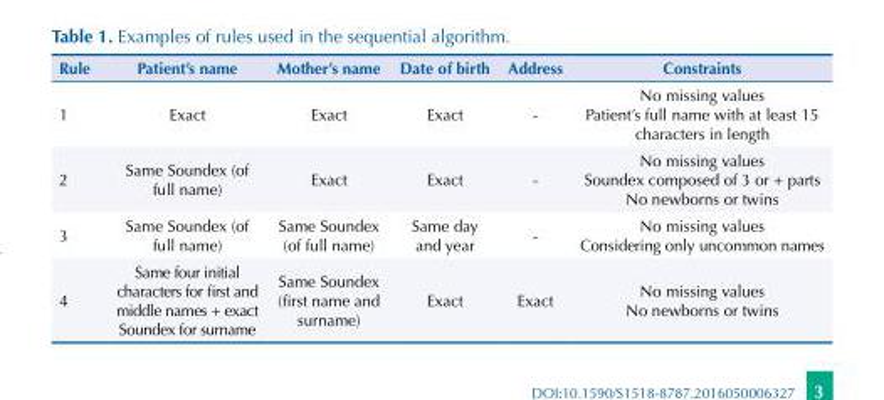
<table><thead><tr><td>Rule</td><td>Patient’s name</td><td>Mother’s name</td><td>Date of birth</td><td>Address</td><td>Constraints</td></tr></thead><tbody><tr><td>1</td><td>Exact</td><td>Exact</td><td>Exact</td><td>-</td><td>No missing values Patient’s full name with at least 15 characters in length</td></tr><tr><td>2</td><td>Same Soundex (of full name)</td><td>Exact</td><td>Exact</td><td>-</td><td>No missing values Soundex composed of 3 or + parts No newborns or twins</td></tr><tr><td>3</td><td>Same Soundex (of full name)</td><td>Same Soundex (of full name)</td><td>Same day and year</td><td>-</td><td>No missing values Considering only uncommon names</td></tr><tr><td>4</td><td>Same four initial characters for first and middle names + exact Soundex for surname</td><td>Same Soundex (first name and surname)</td><td>Exact</td><td>Exact</td><td>No missing values No newborns or twins</td></tr></tbody></table>